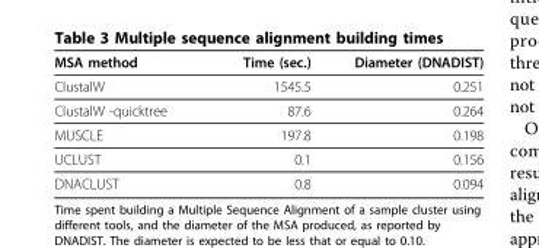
<table><thead><tr><td>MSA method</td><td>Time (sec.)</td><td>Diameter (DNADIST)</td></tr></thead><tbody><tr><td>ClustalW</td><td>1545.5</td><td>0.251</td></tr><tr><td>ClustalW -quicktree</td><td>87.6</td><td>0.264</td></tr><tr><td>MUSCLE</td><td>197.8</td><td>0.198</td></tr><tr><td>UCLUST</td><td>0.1</td><td>0.156</td></tr><tr><td>DNACLUST</td><td>0.8</td><td>0.094</td></tr></tbody></table>